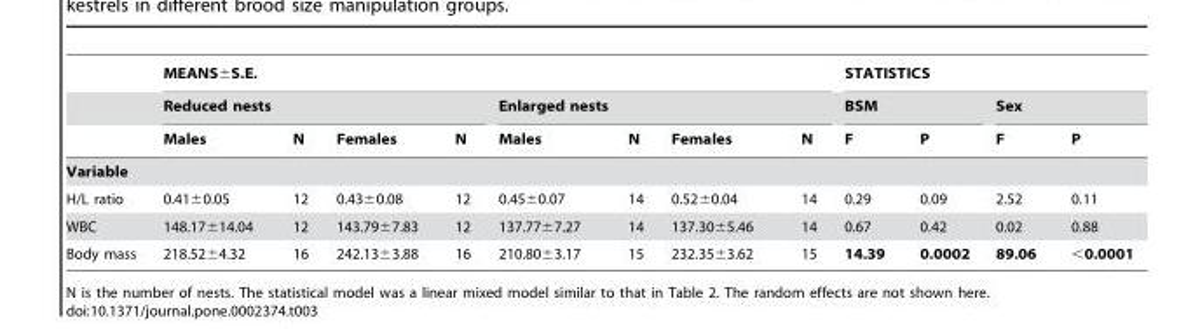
<table><thead><tr><td rowspan="3"></td><td colspan="8">MEANS±S.E.</td><td colspan="4">STATISTICS</td></tr><tr><td colspan="4">Reduced nests</td><td colspan="4">Enlarged nests</td><td colspan="2">BSM</td><td colspan="2">Sex</td></tr><tr><td>Males</td><td>N</td><td>Females</td><td>N</td><td>Males</td><td>N</td><td>Females</td><td>N</td><td>F</td><td>P</td><td>F</td><td>P</td></tr></thead><tbody><tr><td colspan="13">Variable</td></tr><tr><td>H/L ratio</td><td>0.41±0.05</td><td>12</td><td>0.43±0.08</td><td>12</td><td>0.45±0.07</td><td>14</td><td>0.52±0.04</td><td>14</td><td>0.29</td><td>0.09</td><td>2.52</td><td>0.11</td></tr><tr><td>WBC</td><td>148.17±14.04</td><td>12</td><td>143.79±7.83</td><td>12</td><td>137.77±7.27</td><td>14</td><td>137.30±5.46</td><td>14</td><td>0.67</td><td>0.42</td><td>0.02</td><td>0.88</td></tr><tr><td>Body mass</td><td>218.52±4.32</td><td>16</td><td>242.13±3.88</td><td>16</td><td>210.80±3.17</td><td>15</td><td>232.35±3.62</td><td>15</td><td>14.39</td><td>0.0002</td><td>89.06</td><td>&lt;0.0001</td></tr></tbody></table>